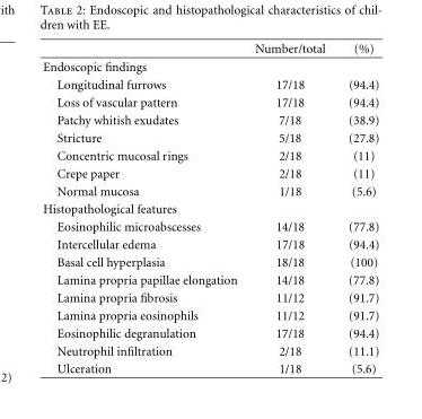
<table><thead><tr><td></td><td>Number/total</td><td>(%)</td></tr></thead><tbody><tr><td colspan="3">Endoscopic findings</td></tr><tr><td>Longitudinal furrows</td><td>17/18</td><td>(94.4)</td></tr><tr><td>Loss of vascular pattern</td><td>17/18</td><td>(94.4)</td></tr><tr><td>Patchy whitish exudates</td><td>7/18</td><td>(38.9)</td></tr><tr><td>Stricture</td><td>5/18</td><td>(27.8)</td></tr><tr><td>Concentric mucosal rings</td><td>2/18</td><td>(11)</td></tr><tr><td>Crepe paper</td><td>2/18</td><td>(11)</td></tr><tr><td>Normal mucosa</td><td>1/18</td><td>(5.6)</td></tr><tr><td colspan="3">Histopathological features</td></tr><tr><td>Eosinophilic microabscesses</td><td>14/18</td><td>(77.8)</td></tr><tr><td>Intercellular edema</td><td>17/18</td><td>(94.4)</td></tr><tr><td>Basal cell hyperplasia</td><td>18/18</td><td>(100)</td></tr><tr><td>Lamina propria papillae elongation</td><td>14/18</td><td>(77.8)</td></tr><tr><td>Lamina propria fibrosis</td><td>11/12</td><td>(91.7)</td></tr><tr><td>Lamina propria eosinophils</td><td>11/12</td><td>(91.7)</td></tr><tr><td>Eosinophilic degranulation</td><td>17/18</td><td>(94.4)</td></tr><tr><td>Neutrophil infiltration</td><td>2/18</td><td>(11.1)</td></tr><tr><td>Ulceration</td><td>1/18</td><td>(5.6)</td></tr></tbody></table>